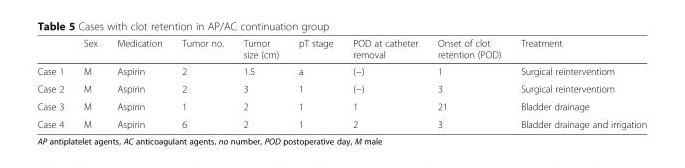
<table><thead><tr><td></td><td>Sex</td><td>Medication</td><td>Tumor no.</td><td>Tumor size (cm)</td><td>pT stage</td><td>POD at catheter removal</td><td>Onset of clot retention (POD)</td><td>Treatment</td></tr></thead><tbody><tr><td>Case 1</td><td>M</td><td>Aspirin</td><td>2</td><td>1.5</td><td>a</td><td>(−)</td><td>1</td><td>Surgical reinterventiom</td></tr><tr><td>Case 2</td><td>M</td><td>Aspirin</td><td>2</td><td>3</td><td>1</td><td>(−)</td><td>3</td><td>Surgical reinterventiom</td></tr><tr><td>Case 3</td><td>M</td><td>Aspirin</td><td>1</td><td>2</td><td>1</td><td>1</td><td>21</td><td>Bladder drainage</td></tr><tr><td>Case 4</td><td>M</td><td>Aspirin</td><td>6</td><td>2</td><td>1</td><td>2</td><td>3</td><td>Bladder drainage and irrigation</td></tr></tbody></table>